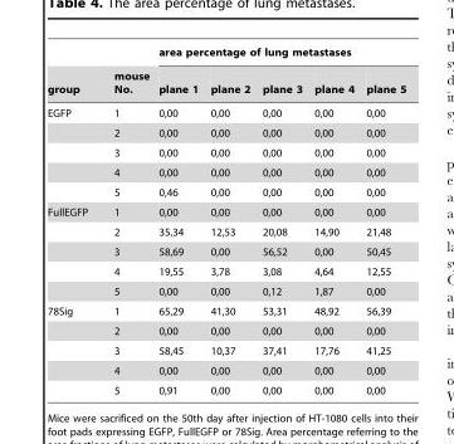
<table><thead><tr><td rowspan="2">group</td><td rowspan="2">mouse No.</td><td colspan="5">area percentage of lung metastases</td></tr><tr><td>plane 1</td><td>plane 2</td><td>plane 3</td><td>plane 4</td><td>plane 5</td></tr></thead><tbody><tr><td rowspan="5">EGFP</td><td>1</td><td>0,00</td><td>0,00</td><td>0,00</td><td>0,00</td><td>0,00</td></tr><tr><td>2</td><td>0,00</td><td>0,00</td><td>0,00</td><td>0,00</td><td>0,00</td></tr><tr><td>3</td><td>0,00</td><td>0,00</td><td>0,00</td><td>0,00</td><td>0,00</td></tr><tr><td>4</td><td>0,00</td><td>0,00</td><td>0,00</td><td>0,00</td><td>0,00</td></tr><tr><td>5</td><td>0,46</td><td>0,00</td><td>0,00</td><td>0,00</td><td>0,00</td></tr><tr><td rowspan="5">FullEGFP</td><td>1</td><td>0,00</td><td>0,00</td><td>0,00</td><td>0,00</td><td>0,00</td></tr><tr><td>2</td><td>35,34</td><td>12,53</td><td>20,08</td><td>14,90</td><td>21,48</td></tr><tr><td>3</td><td>58,69</td><td>0,00</td><td>56,52</td><td>0,00</td><td>50,45</td></tr><tr><td>4</td><td>19,55</td><td>3,78</td><td>3,08</td><td>4,64</td><td>12,55</td></tr><tr><td>5</td><td>0,00</td><td>0,00</td><td>0,12</td><td>1,87</td><td>0,00</td></tr><tr><td rowspan="5">78Sig</td><td>1</td><td>65,29</td><td>41,30</td><td>53,31</td><td>48,92</td><td>56,39</td></tr><tr><td>2</td><td>0,00</td><td>0,00</td><td>0,00</td><td>0,00</td><td>0,00</td></tr><tr><td>3</td><td>58,45</td><td>10,37</td><td>37,41</td><td>17,76</td><td>41,25</td></tr><tr><td>4</td><td>0,00</td><td>0,00</td><td>0,00</td><td>0,00</td><td>0,00</td></tr><tr><td>5</td><td>0,91</td><td>0,00</td><td>0,00</td><td>0,00</td><td>0,00</td></tr></tbody></table>